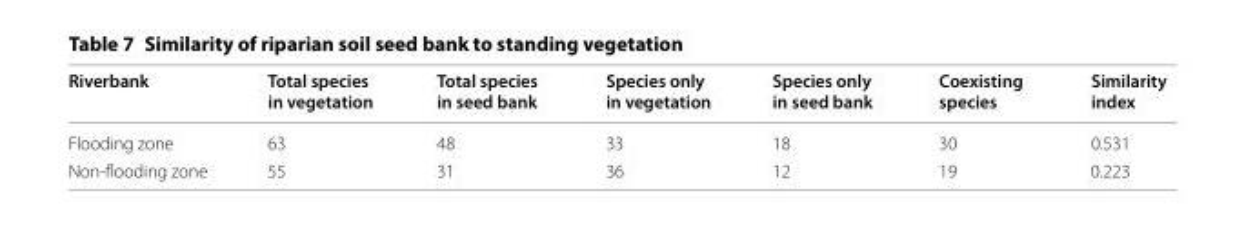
<table><thead><tr><td>Riverbank</td><td>Total species in vegetation</td><td>Total species in seed bank</td><td>Species only in vegetation</td><td>Species only in seed bank</td><td>Coexisting species</td><td>Similarity index</td></tr></thead><tbody><tr><td>Flooding zone</td><td>63</td><td>48</td><td>33</td><td>18</td><td>30</td><td>0.531</td></tr><tr><td>Non-flooding zone</td><td>55</td><td>31</td><td>36</td><td>12</td><td>19</td><td>0.223</td></tr></tbody></table>